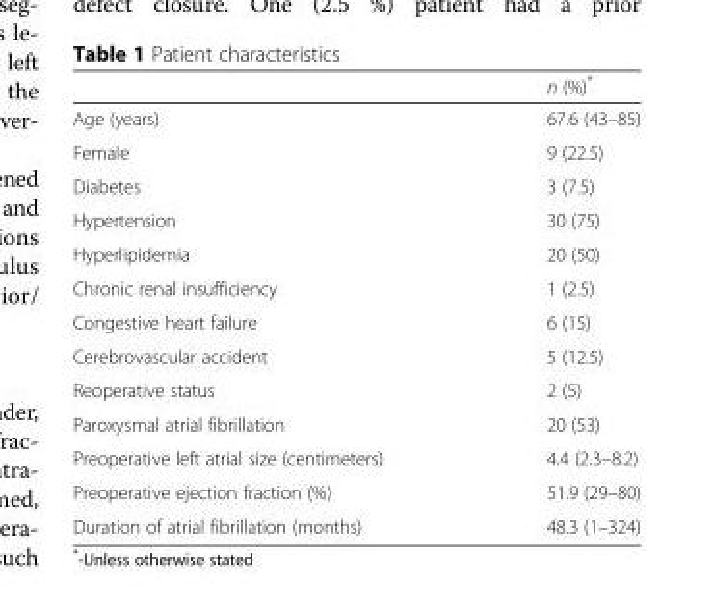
<table><thead><tr><td></td><td>n (%)*</td></tr></thead><tbody><tr><td>Age (years)</td><td>67.6 (43–85)</td></tr><tr><td>Female</td><td>9 (22.5)</td></tr><tr><td>Diabetes</td><td>3 (7.5)</td></tr><tr><td>Hypertension</td><td>30 (75)</td></tr><tr><td>Hyperlipidemia</td><td>20 (50)</td></tr><tr><td>Chronic renal insufficiency</td><td>1 (2.5)</td></tr><tr><td>Congestive heart failure</td><td>6 (15)</td></tr><tr><td>Cerebrovascular accident</td><td>5 (12.5)</td></tr><tr><td>Reoperative status</td><td>2 (5)</td></tr><tr><td>Paroxysmal atrial fibrillation</td><td>20 (53)</td></tr><tr><td>Preoperative left atrial size (centimeters)</td><td>4.4 (2.3–8.2)</td></tr><tr><td>Preoperative ejection fraction (%)</td><td>51.9 (29–80)</td></tr><tr><td>Duration of atrial fibrillation (months)</td><td>48.3 (1–324)</td></tr></tbody></table>